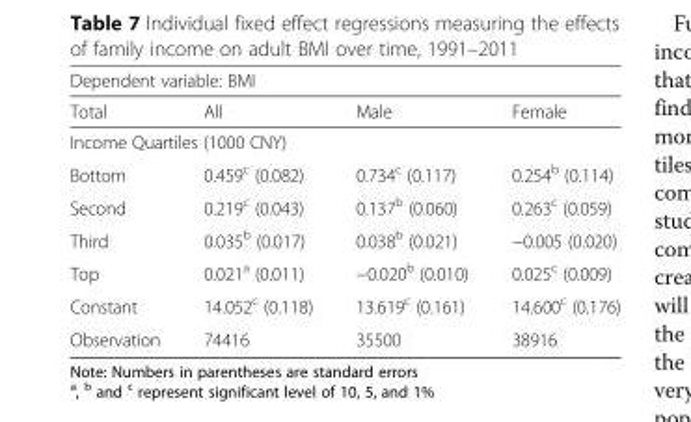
<table><thead><tr><td colspan="4">Dependent variable: BMI</td></tr><tr><td>Total</td><td>All</td><td>Male</td><td>Female</td></tr></thead><tbody><tr><td colspan="4">Income Quartiles (1000 CNY)</td></tr><tr><td>Bottom</td><td>0.459<sup>c</sup> (0.082)</td><td>0.734<sup>c</sup> (0.117)</td><td>0.254<sup>b</sup> (0.114)</td></tr><tr><td>Second</td><td>0.219<sup>c</sup> (0.043)</td><td>0.137<sup>b</sup> (0.060)</td><td>0.263<sup>c</sup> (0.059)</td></tr><tr><td>Third</td><td>0.035<sup>b</sup> (0.017)</td><td>0.038<sup>b</sup> (0.021)</td><td>−0.005 (0.020)</td></tr><tr><td>Top</td><td>0.021<sup>a</sup> (0.011)</td><td>−0.020<sup>b</sup> (0.010)</td><td>0.025<sup>c</sup> (0.009)</td></tr><tr><td>Constant</td><td>14.052<sup>c</sup> (0.118)</td><td>13.619<sup>c</sup> (0.161)</td><td>14.600<sup>c</sup> (0.176)</td></tr><tr><td>Observation</td><td>74416</td><td>35500</td><td>38916</td></tr></tbody></table>